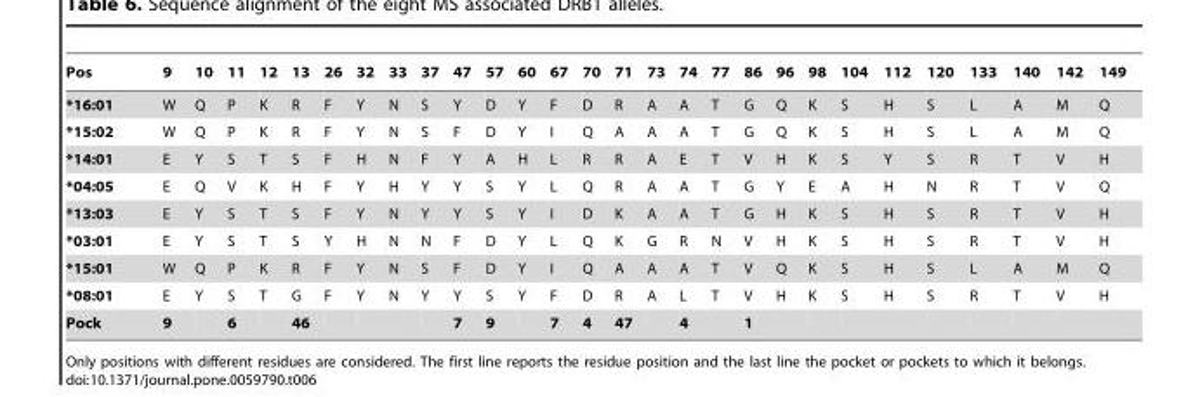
<table><thead><tr><td>Pos</td><td>9</td><td>10</td><td>11</td><td>12</td><td>13</td><td>26</td><td>32</td><td>33</td><td>37</td><td>47</td><td>57</td><td>60</td><td>67</td><td>70</td><td>71</td><td>73</td><td>74</td><td>77</td><td>86</td><td>96</td><td>98</td><td>104</td><td>112</td><td>120</td><td>133</td><td>140</td><td>142</td><td>149</td></tr></thead><tbody><tr><td>*16:01</td><td>W</td><td>Q</td><td>P</td><td>K</td><td>R</td><td>F</td><td>Y</td><td>N</td><td>S</td><td>Y</td><td>D</td><td>Y</td><td>F</td><td>D</td><td>R</td><td>A</td><td>A</td><td>T</td><td>G</td><td>Q</td><td>K</td><td>S</td><td>H</td><td>S</td><td>L</td><td>A</td><td>M</td><td>Q</td></tr><tr><td>*15:02</td><td>W</td><td>Q</td><td>P</td><td>K</td><td>R</td><td>F</td><td>Y</td><td>N</td><td>S</td><td>F</td><td>D</td><td>Y</td><td>I</td><td>Q</td><td>A</td><td>A</td><td>A</td><td>T</td><td>G</td><td>Q</td><td>K</td><td>S</td><td>H</td><td>S</td><td>L</td><td>A</td><td>M</td><td>Q</td></tr><tr><td>*14:01</td><td>E</td><td>Y</td><td>S</td><td>T</td><td>S</td><td>F</td><td>H</td><td>N</td><td>F</td><td>Y</td><td>A</td><td>H</td><td>L</td><td>R</td><td>R</td><td>A</td><td>E</td><td>T</td><td>V</td><td>H</td><td>K</td><td>S</td><td>Y</td><td>S</td><td>R</td><td>T</td><td>V</td><td>H</td></tr><tr><td>*04:05</td><td>E</td><td>Q</td><td>V</td><td>K</td><td>H</td><td>F</td><td>Y</td><td>H</td><td>Y</td><td>Y</td><td>S</td><td>Y</td><td>L</td><td>Q</td><td>R</td><td>A</td><td>A</td><td>T</td><td>G</td><td>Y</td><td>E</td><td>A</td><td>H</td><td>N</td><td>R</td><td>T</td><td>V</td><td>Q</td></tr><tr><td>*13:03</td><td>E</td><td>Y</td><td>S</td><td>T</td><td>S</td><td>F</td><td>Y</td><td>N</td><td>Y</td><td>Y</td><td>S</td><td>Y</td><td>I</td><td>D</td><td>K</td><td>A</td><td>A</td><td>T</td><td>G</td><td>H</td><td>K</td><td>S</td><td>H</td><td>S</td><td>R</td><td>T</td><td>V</td><td>H</td></tr><tr><td>*03:01</td><td>E</td><td>Y</td><td>S</td><td>T</td><td>S</td><td>Y</td><td>H</td><td>N</td><td>N</td><td>F</td><td>D</td><td>Y</td><td>L</td><td>Q</td><td>K</td><td>G</td><td>R</td><td>N</td><td>V</td><td>H</td><td>K</td><td>S</td><td>H</td><td>S</td><td>R</td><td>T</td><td>V</td><td>H</td></tr><tr><td>*15:01</td><td>W</td><td>Q</td><td>P</td><td>K</td><td>R</td><td>F</td><td>Y</td><td>N</td><td>S</td><td>F</td><td>D</td><td>Y</td><td>I</td><td>Q</td><td>A</td><td>A</td><td>A</td><td>T</td><td>V</td><td>Q</td><td>K</td><td>S</td><td>H</td><td>S</td><td>L</td><td>A</td><td>M</td><td>Q</td></tr><tr><td>*08:01</td><td>E</td><td>Y</td><td>S</td><td>T</td><td>G</td><td>F</td><td>Y</td><td>N</td><td>Y</td><td>Y</td><td>S</td><td>Y</td><td>F</td><td>D</td><td>R</td><td>A</td><td>L</td><td>T</td><td>V</td><td>H</td><td>K</td><td>S</td><td>H</td><td>S</td><td>R</td><td>T</td><td>V</td><td>H</td></tr><tr><td>Pock</td><td>9</td><td></td><td>6</td><td></td><td>46</td><td></td><td></td><td></td><td></td><td>7</td><td>9</td><td></td><td>7</td><td>4</td><td>47</td><td></td><td>4</td><td></td><td>1</td><td></td><td></td><td></td><td></td><td></td><td></td><td></td><td></td><td></td></tr></tbody></table>